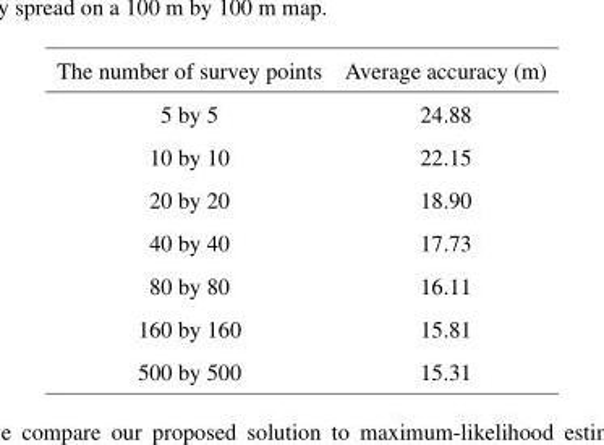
<table><thead><tr><td>The number of survey points</td><td>Average accuracy (m)</td></tr></thead><tbody><tr><td>5 by 5</td><td>24.88</td></tr><tr><td>10 by 10</td><td>22.15</td></tr><tr><td>20 by 20</td><td>18.90</td></tr><tr><td>40 by 40</td><td>17.73</td></tr><tr><td>80 by 80</td><td>16.11</td></tr><tr><td>160 by 160</td><td>15.81</td></tr><tr><td>500 by 500</td><td>15.31</td></tr></tbody></table>